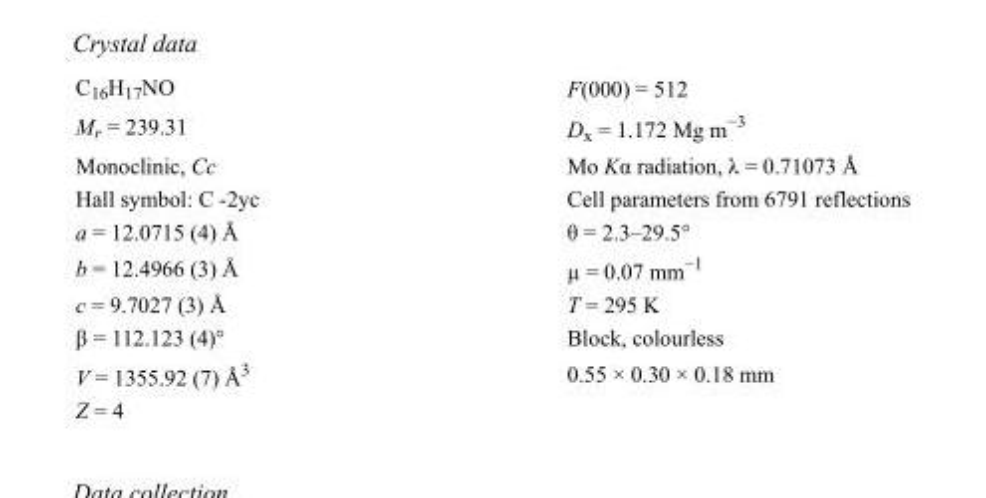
<table><tbody><tr><td>C<sub>16</sub>H<sub>17</sub>NO</td><td>F(000) = 512</td></tr><tr><td>M<sub>r</sub> = 239.31</td><td>D<sub>x</sub> = 1.172 Mg m<sup>−3</sup></td></tr><tr><td>Monoclinic, Cc</td><td>Mo Kα radiation, λ = 0.71073 Å</td></tr><tr><td>Hall symbol: C -2yc</td><td>Cell parameters from 6791 reflections</td></tr><tr><td>a = 12.0715 (4) Å</td><td>θ = 2.3–29.5°</td></tr><tr><td>b = 12.4966 (3) Å</td><td>µ = 0.07 mm<sup>−1</sup></td></tr><tr><td>c = 9.7027 (3) Å</td><td>T = 295 K</td></tr><tr><td>β = 112.123 (4)°</td><td>Block, colourless</td></tr><tr><td>V = 1355.92 (7) Å<sup>3</sup></td><td>0.55 × 0.30 × 0.18 mm</td></tr><tr><td>Z = 4</td><td></td></tr></tbody></table>